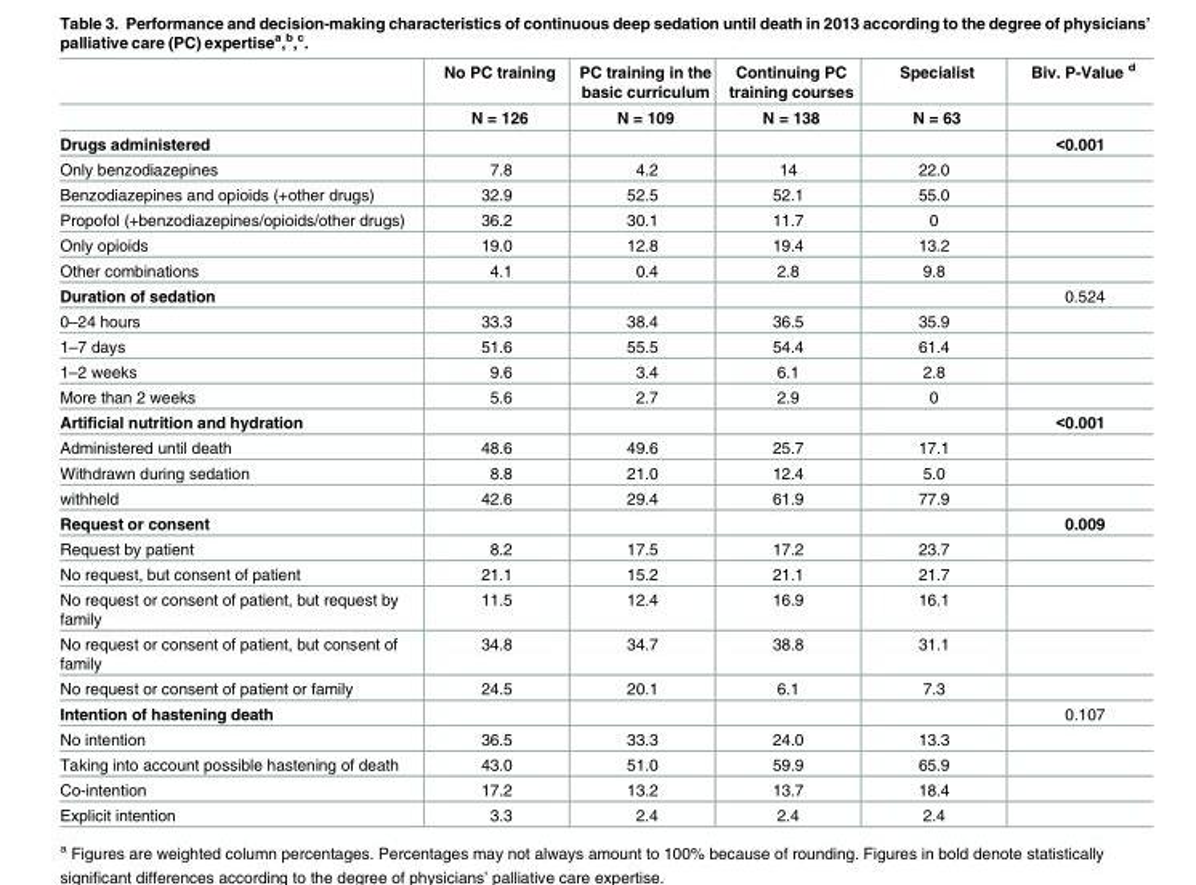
<table><thead><tr><td rowspan="2"></td><td rowspan="2">No PC training N = 126</td><td rowspan="2">PC training in the basic curriculum N = 109</td><td rowspan="2">Continuing PC training courses N = 138</td><td rowspan="2">Specialist N = 63</td><td rowspan="2">Biv. P-Value <sup>d</sup></td></tr><tr></tr></thead><tbody><tr><td>Drugs administered</td><td></td><td></td><td></td><td></td><td>&lt;0.001</td></tr><tr><td>Only benzodiazepines</td><td>7.8</td><td>4.2</td><td>14</td><td>22.0</td><td></td></tr><tr><td>Benzodiazepines and opioids (+other drugs)</td><td>32.9</td><td>52.5</td><td>52.1</td><td>55.0</td><td></td></tr><tr><td>Propofol (+benzodiazepines/opioids/other drugs)</td><td>36.2</td><td>30.1</td><td>11.7</td><td>0</td><td></td></tr><tr><td>Only opioids</td><td>19.0</td><td>12.8</td><td>19.4</td><td>13.2</td><td></td></tr><tr><td>Other combinations</td><td>4.1</td><td>0.4</td><td>2.8</td><td>9.8</td><td></td></tr><tr><td>Duration of sedation</td><td></td><td></td><td></td><td></td><td>0.524</td></tr><tr><td>0–24 hours</td><td>33.3</td><td>38.4</td><td>36.5</td><td>35.9</td><td></td></tr><tr><td>1–7 days</td><td>51.6</td><td>55.5</td><td>54.4</td><td>61.4</td><td></td></tr><tr><td>1–2 weeks</td><td>9.6</td><td>3.4</td><td>6.1</td><td>2.8</td><td></td></tr><tr><td>More than 2 weeks</td><td>5.6</td><td>2.7</td><td>2.9</td><td>0</td><td></td></tr><tr><td>Artificial nutrition and hydration</td><td></td><td></td><td></td><td></td><td>&lt;0.001</td></tr><tr><td>Administered until death</td><td>48.6</td><td>49.6</td><td>25.7</td><td>17.1</td><td></td></tr><tr><td>Withdrawn during sedation</td><td>8.8</td><td>21.0</td><td>12.4</td><td>5.0</td><td></td></tr><tr><td>withheld</td><td>42.6</td><td>29.4</td><td>61.9</td><td>77.9</td><td></td></tr><tr><td>Request or consent</td><td></td><td></td><td></td><td></td><td>0.009</td></tr><tr><td>Request by patient</td><td>8.2</td><td>17.5</td><td>17.2</td><td>23.7</td><td></td></tr><tr><td>No request, but consent of patient</td><td>21.1</td><td>15.2</td><td>21.1</td><td>21.7</td><td></td></tr><tr><td>No request or consent of patient, but request by family</td><td>11.5</td><td>12.4</td><td>16.9</td><td>16.1</td><td></td></tr><tr><td>No request or consent of patient, but consent of family</td><td>34.8</td><td>34.7</td><td>38.8</td><td>31.1</td><td></td></tr><tr><td>No request or consent of patient or family</td><td>24.5</td><td>20.1</td><td>6.1</td><td>7.3</td><td></td></tr><tr><td>Intention of hastening death</td><td></td><td></td><td></td><td></td><td>0.107</td></tr><tr><td>No intention</td><td>36.5</td><td>33.3</td><td>24.0</td><td>13.3</td><td></td></tr><tr><td>Taking into account possible hastening of death</td><td>43.0</td><td>51.0</td><td>59.9</td><td>65.9</td><td></td></tr><tr><td>Co-intention</td><td>17.2</td><td>13.2</td><td>13.7</td><td>18.4</td><td></td></tr><tr><td>Explicit intention</td><td>3.3</td><td>2.4</td><td>2.4</td><td>2.4</td><td></td></tr></tbody></table>